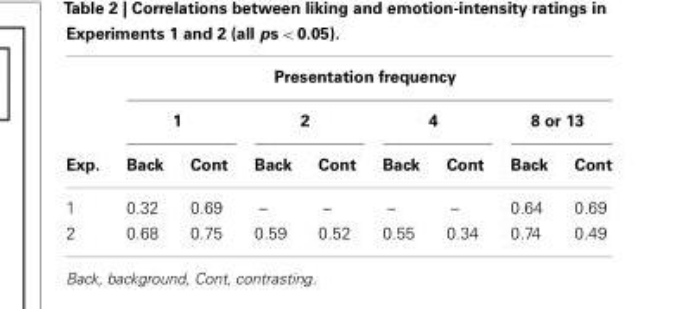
<table><thead><tr><td rowspan="3">Exp.</td><td colspan="8">Presentation frequency</td></tr><tr><td colspan="2">1</td><td colspan="2">2</td><td colspan="2">4</td><td colspan="2">8 or 13</td></tr><tr><td>Back</td><td>Cont</td><td>Back</td><td>Cont</td><td>Back</td><td>Cont</td><td>Back</td><td>Cont</td></tr></thead><tbody><tr><td>1</td><td>0.32</td><td>0.69</td><td>–</td><td>–</td><td>–</td><td>–</td><td>0.64</td><td>0.69</td></tr><tr><td>2</td><td>0.68</td><td>0.75</td><td>0.59</td><td>0.52</td><td>0.55</td><td>0.34</td><td>0.74</td><td>0.49</td></tr></tbody></table>